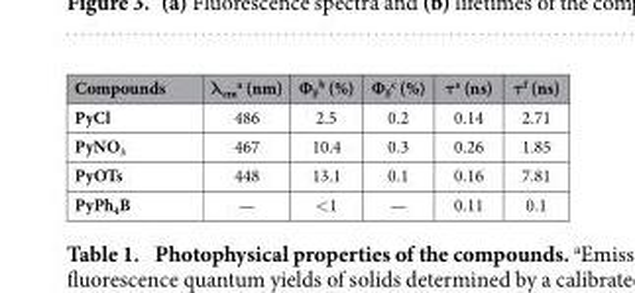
<table><thead><tr><td>Compounds</td><td>λ<sub>em</sub> <sup>a</sup> (nm)</td><td>Ф<sub>F</sub> <sup>b</sup> (%)</td><td>Ф<sub>F</sub> <sup>c</sup> (%)</td><td>τ<sup>e</sup> (ns)</td><td>τ<sup>f</sup> (ns)</td></tr></thead><tbody><tr><td>PyCl</td><td>486</td><td>2.5</td><td>0.2</td><td>0.14</td><td>2.71</td></tr><tr><td>PyNO<sub>3</sub></td><td>467</td><td>10.4</td><td>0.3</td><td>0.26</td><td>1.85</td></tr><tr><td>PyOTs</td><td>448</td><td>13.1</td><td>0.1</td><td>0.16</td><td>7.81</td></tr><tr><td>PyPh<sub>4</sub>B</td><td>—</td><td>&lt; 1</td><td>—</td><td>0.11</td><td>0.1</td></tr></tbody></table>